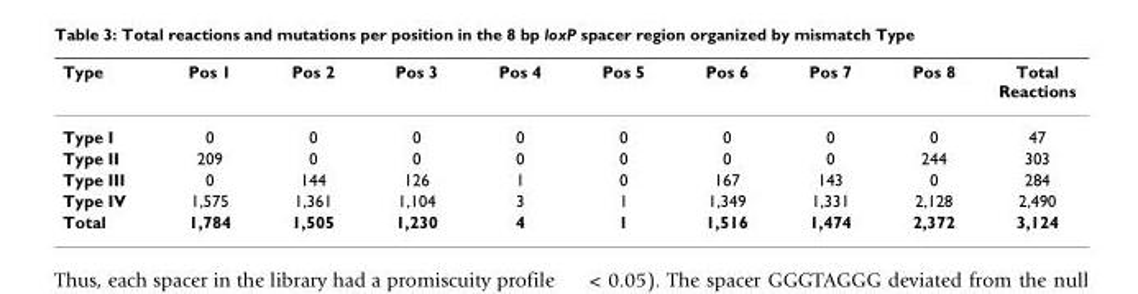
<table><thead><tr><td>Type</td><td>Pos 1</td><td>Pos 2</td><td>Pos 3</td><td>Pos 4</td><td>Pos 5</td><td>Pos 6</td><td>Pos 7</td><td>Pos 8</td><td>Total Reactions</td></tr></thead><tbody><tr><td>Type I</td><td>0</td><td>0</td><td>0</td><td>0</td><td>0</td><td>0</td><td>0</td><td>0</td><td>47</td></tr><tr><td>Type II</td><td>209</td><td>0</td><td>0</td><td>0</td><td>0</td><td>0</td><td>0</td><td>244</td><td>303</td></tr><tr><td>Type III</td><td>0</td><td>144</td><td>126</td><td>1</td><td>0</td><td>167</td><td>143</td><td>0</td><td>284</td></tr><tr><td>Type IV</td><td>1,575</td><td>1,361</td><td>1,104</td><td>3</td><td>1</td><td>1,349</td><td>1,331</td><td>2,128</td><td>2,490</td></tr><tr><td>Total</td><td>1,784</td><td>1,505</td><td>1,230</td><td>4</td><td>1</td><td>1,516</td><td>1,474</td><td>2,372</td><td>3,124</td></tr></tbody></table>